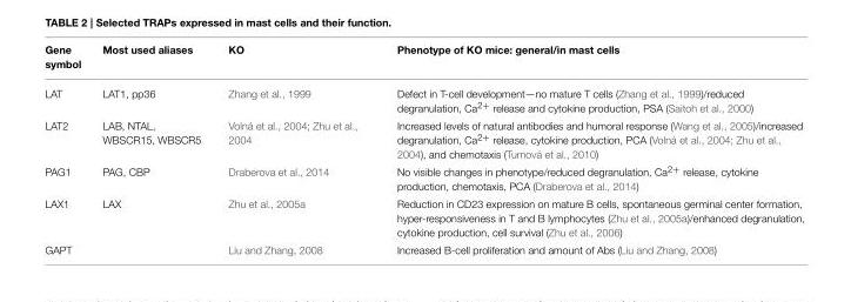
<table><thead><tr><td>Gene symbol</td><td>Most used aliases</td><td>KO</td><td>Phenotype of KO mice: general/in mast cells</td></tr></thead><tbody><tr><td>LAT</td><td>LAT1, pp36</td><td>Zhang et al., 1999</td><td>Defect in T-cell development—no mature T cells (Zhang et al., 1999)/reduced degranulation, Ca<sup>2+</sup> release and cytokine production, PSA (Saitoh et al., 2000)</td></tr><tr><td>LAT2</td><td>LAB, NTAL, WBSCR15, WBSCR5</td><td>Volná et al., 2004; Zhu et al., 2004</td><td>Increased levels of natural antibodies and humoral response (Wang et al., 2005)/increased degranulation, Ca<sup>2+</sup> release, cytokine production, PCA (Volná et al., 2004; Zhu et al., 2004), and chemotaxis (Tumová et al., 2010)</td></tr><tr><td>PAG1</td><td>PAG, CBP</td><td>Draberova et al., 2014</td><td>No visible changes in phenotype/reduced degranulation, Ca<sup>2+</sup> release, cytokine production, chemotaxis, PCA (Draberova et al., 2014)</td></tr><tr><td>LAX1</td><td>LAX</td><td>Zhu et al., 2005a</td><td>Reduction in CD23 expression on mature B cells, spontaneous germinal center formation, hyper-responsiveness in T and B lymphocytes (Zhu et al., 2005a)/enhanced degranulation, cytokine production, cell survival (Zhu et al., 2006)</td></tr><tr><td>GAPT</td><td></td><td>Liu and Zhang, 2008</td><td>Increased B-cell proliferation and amount of Abs (Liu and Zhang, 2008)</td></tr></tbody></table>